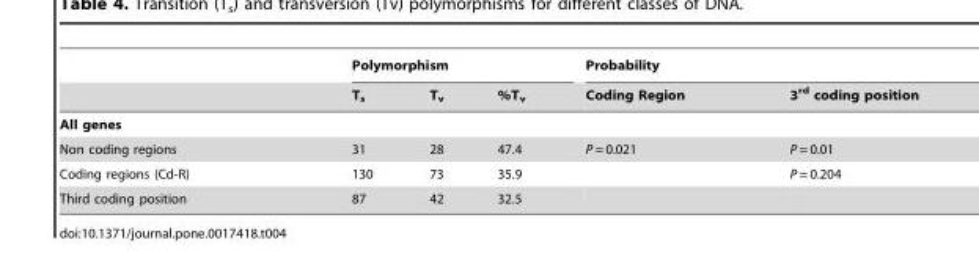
<table><thead><tr><td rowspan="2"></td><td colspan="3">Polymorphism</td><td colspan="2">Probability</td></tr><tr><td>T<sub>s</sub></td><td>T<sub>v</sub></td><td>%T<sub>v</sub></td><td>Coding Region</td><td>3<sup>rd</sup> coding position</td></tr></thead><tbody><tr><td colspan="6">All genes</td></tr><tr><td>Non coding regions</td><td>31</td><td>28</td><td>47.4</td><td>P = 0.021</td><td>P = 0.01</td></tr><tr><td>Coding regions (Cd-R)</td><td>130</td><td>73</td><td>35.9</td><td></td><td>P = 0.204</td></tr><tr><td>Third coding position</td><td>87</td><td>42</td><td>32.5</td><td></td><td></td></tr></tbody></table>